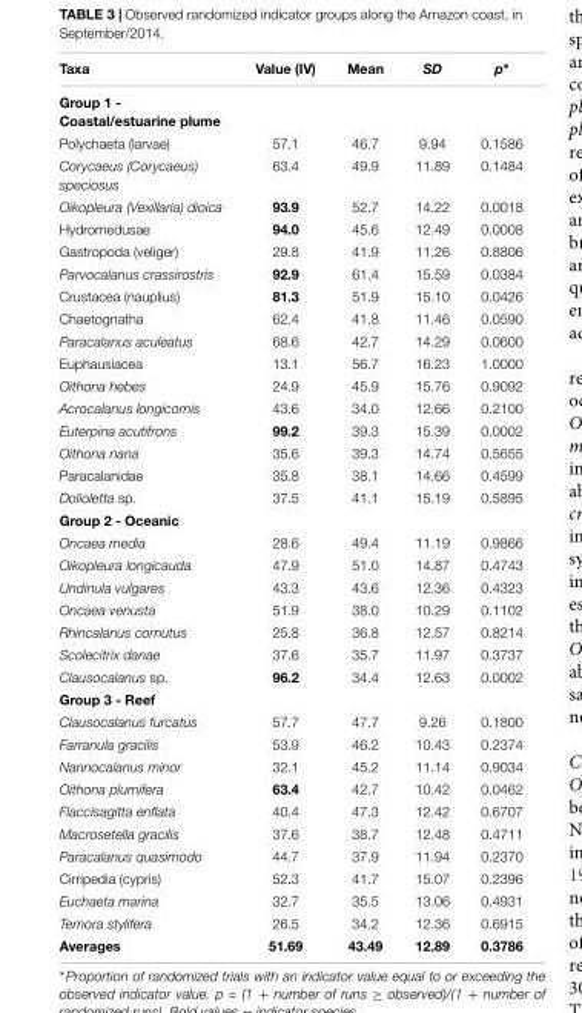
<table><thead><tr><td>Taxa</td><td>Value (IV)</td><td>Mean</td><td>SD</td><td>p∗</td></tr></thead><tbody><tr><td colspan="5">Group 1 - Coastal/estuarine plume</td></tr><tr><td>Polychaeta (larvae)</td><td>57.1</td><td>46.7</td><td>9.94</td><td>0.1586</td></tr><tr><td>Corycaeus (Corycaeus) speciosus</td><td>63.4</td><td>49.9</td><td>11.89</td><td>0.1484</td></tr><tr><td>Oikopleura (Vexillaria) dioica</td><td>93.9</td><td>52.7</td><td>14.22</td><td>0.0018</td></tr><tr><td>Hydromedusae</td><td>94.0</td><td>45.6</td><td>12.49</td><td>0.0008</td></tr><tr><td>Gastropoda (veliger)</td><td>29.8</td><td>41.9</td><td>11.26</td><td>0.8806</td></tr><tr><td>Parvocalanus crassirostris</td><td>92.9</td><td>61.4</td><td>15.59</td><td>0.0384</td></tr><tr><td>Crustacea (nauplius)</td><td>81.3</td><td>51.9</td><td>15.10</td><td>0.0426</td></tr><tr><td>Chaetognatha</td><td>62.4</td><td>41.8</td><td>11.46</td><td>0.0590</td></tr><tr><td>Paracalanus aculeatus</td><td>68.6</td><td>42.7</td><td>14.29</td><td>0.0600</td></tr><tr><td>Euphausiacea</td><td>13.1</td><td>56.7</td><td>16.23</td><td>1.0000</td></tr><tr><td>Oithona hebes</td><td>24.9</td><td>45.9</td><td>15.76</td><td>0.9092</td></tr><tr><td>Acrocalanus longicornis</td><td>43.6</td><td>34.0</td><td>12.66</td><td>0.2100</td></tr><tr><td>Euterpina acutifrons</td><td>99.2</td><td>39.3</td><td>15.39</td><td>0.0002</td></tr><tr><td>Oithona nana</td><td>35.6</td><td>39.3</td><td>14.74</td><td>0.5655</td></tr><tr><td>Paracalanidae</td><td>35.8</td><td>38.1</td><td>14.66</td><td>0.4599</td></tr><tr><td>Dolioletta sp.</td><td>37.5</td><td>41.1</td><td>15.19</td><td>0.5895</td></tr><tr><td colspan="5">Group 2 - Oceanic</td></tr><tr><td>Oncaea media</td><td>28.6</td><td>49.4</td><td>11.19</td><td>0.9866</td></tr><tr><td>Oikopleura longicauda</td><td>47.9</td><td>51.0</td><td>14.87</td><td>0.4743</td></tr><tr><td>Undinula vulgares</td><td>43.3</td><td>43.6</td><td>12.36</td><td>0.4323</td></tr><tr><td>Oncaea venusta</td><td>51.9</td><td>38.0</td><td>10.29</td><td>0.1102</td></tr><tr><td>Rhincalanus cornutus</td><td>25.8</td><td>36.8</td><td>12.57</td><td>0.8214</td></tr><tr><td>Scolecitrix danae</td><td>37.6</td><td>35.7</td><td>11.97</td><td>0.3737</td></tr><tr><td>Clausocalanus sp.</td><td>96.2</td><td>34.4</td><td>12.63</td><td>0.0002</td></tr><tr><td colspan="5">Group 3 - Reef</td></tr><tr><td>Clausocalanus furcatus</td><td>57.7</td><td>47.7</td><td>9.26</td><td>0.1800</td></tr><tr><td>Farranula gracilis</td><td>53.9</td><td>46.2</td><td>10.43</td><td>0.2374</td></tr><tr><td>Nannocalanus minor</td><td>32.1</td><td>45.2</td><td>11.14</td><td>0.9034</td></tr><tr><td>Oithona plumifera</td><td>63.4</td><td>42.7</td><td>10.42</td><td>0.0462</td></tr><tr><td>Flaccisagitta enflata</td><td>40.4</td><td>47.3</td><td>12.42</td><td>0.6707</td></tr><tr><td>Macrosetella gracilis</td><td>37.6</td><td>38.7</td><td>12.48</td><td>0.4711</td></tr><tr><td>Paracalanus quasimodo</td><td>44.7</td><td>37.9</td><td>11.94</td><td>0.2370</td></tr><tr><td>Cirripedia (cypris)</td><td>52.3</td><td>41.7</td><td>15.07</td><td>0.2396</td></tr><tr><td>Euchaeta marina</td><td>32.7</td><td>35.5</td><td>13.06</td><td>0.4931</td></tr><tr><td>Temora stylifera</td><td>26.5</td><td>34.2</td><td>12.36</td><td>0.6915</td></tr><tr><td>Averages</td><td>51.69</td><td>43.49</td><td>12.89</td><td>0.3786</td></tr></tbody></table>